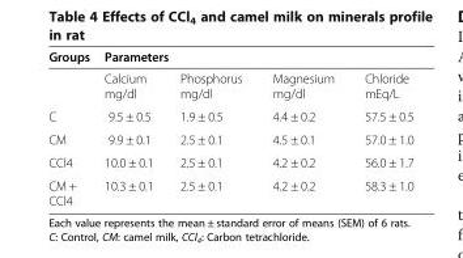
<table><thead><tr><td>Groups</td><td>Parameters</td><td></td><td></td><td></td></tr></thead><tbody><tr><td></td><td>Calcium mg/dl</td><td>Phosphorus mg/dl</td><td>Magnesium mg/dl</td><td>Chloride mEq/L</td></tr><tr><td>C</td><td>9.5 ± 0.5</td><td>1.9 ± 0.5</td><td>4.4 ± 0.2</td><td>57.5 ± 0.5</td></tr><tr><td>CM</td><td>9.9 ± 0.1</td><td>2.5 ± 0.1</td><td>4.5 ± 0.1</td><td>57.0 ± 1.0</td></tr><tr><td>CCl4</td><td>10.0 ± 0.1</td><td>2.5 ± 0.1</td><td>4.2 ± 0.2</td><td>56.0 ± 1.7</td></tr><tr><td>CM + CCl4</td><td>10.3 ± 0.1</td><td>2.5 ± 0.1</td><td>4.2 ± 0.2</td><td>58.3 ± 1.0</td></tr></tbody></table>